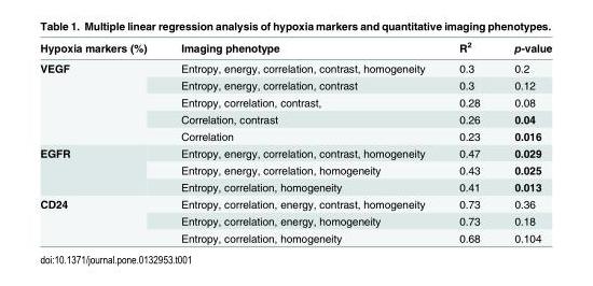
<table><thead><tr><td>Hypoxia markers (%)</td><td>Imaging phenotype</td><td>R<sup>2</sup></td><td>p-value</td></tr></thead><tbody><tr><td rowspan="5">VEGF</td><td>Entropy, energy, correlation, contrast, homogeneity</td><td>0.3</td><td>0.2</td></tr><tr><td>Entropy, energy, correlation, contrast</td><td>0.3</td><td>0.12</td></tr><tr><td>Entropy, correlation, contrast,</td><td>0.28</td><td>0.08</td></tr><tr><td>Correlation, contrast</td><td>0.26</td><td>0.04</td></tr><tr><td>Correlation</td><td>0.23</td><td>0.016</td></tr><tr><td rowspan="3">EGFR</td><td>Entropy, energy, correlation, contrast, homogeneity</td><td>0.47</td><td>0.029</td></tr><tr><td>Entropy, energy, correlation, homogeneity</td><td>0.43</td><td>0.025</td></tr><tr><td>Entropy, correlation, homogeneity</td><td>0.41</td><td>0.013</td></tr><tr><td rowspan="3">CD24</td><td>Entropy, correlation, energy, contrast, homogeneity</td><td>0.73</td><td>0.36</td></tr><tr><td>Entropy, correlation, energy, homogeneity</td><td>0.73</td><td>0.18</td></tr><tr><td>Entropy, correlation, homogeneity</td><td>0.68</td><td>0.104</td></tr></tbody></table>